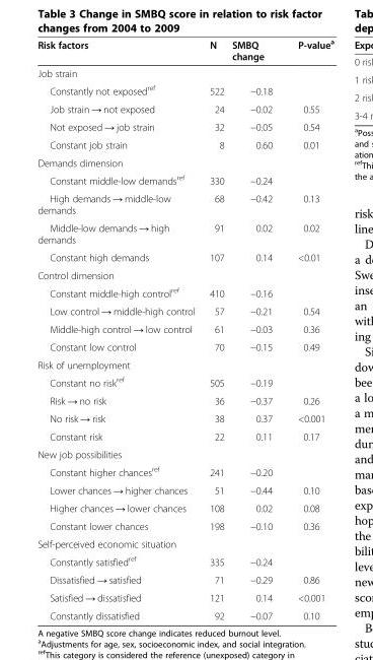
<table><thead><tr><td>Risk factors</td><td>N</td><td>SMBQ change</td><td>P-value<sup>a</sup></td></tr></thead><tbody><tr><td colspan="4">Job strain</td></tr><tr><td>Constantly not exposed<sup>ref</sup></td><td>522</td><td>−0.18</td><td></td></tr><tr><td>Job strain → not exposed</td><td>24</td><td>−0.02</td><td>0.55</td></tr><tr><td>Not exposed → job strain</td><td>32</td><td>−0.05</td><td>0.54</td></tr><tr><td>Constant job strain</td><td>8</td><td>0.60</td><td>0.01</td></tr><tr><td colspan="4">Demands dimension</td></tr><tr><td>Constant middle-low demands<sup>ref</sup></td><td>330</td><td>−0.24</td><td></td></tr><tr><td>High demands → middle-low demands</td><td>68</td><td>−0.42</td><td>0.13</td></tr><tr><td>Middle-low demands → high demands</td><td>91</td><td>0.02</td><td>0.02</td></tr><tr><td>Constant high demands</td><td>107</td><td>0.14</td><td>&lt;0.01</td></tr><tr><td colspan="4">Control dimension</td></tr><tr><td>Constant middle-high control<sup>ref</sup></td><td>410</td><td>−0.16</td><td></td></tr><tr><td>Low control → middle-high control</td><td>57</td><td>−0.21</td><td>0.54</td></tr><tr><td>Middle-high control → low control</td><td>61</td><td>−0.03</td><td>0.36</td></tr><tr><td>Constant low control</td><td>70</td><td>−0.15</td><td>0.49</td></tr><tr><td colspan="4">Risk of unemployment</td></tr><tr><td>Constant no risk<sup>ref</sup></td><td>505</td><td>−0.19</td><td></td></tr><tr><td>Risk → no risk</td><td>36</td><td>−0.37</td><td>0.26</td></tr><tr><td>No risk → risk</td><td>38</td><td>0.37</td><td>&lt;0.001</td></tr><tr><td>Constant risk</td><td>22</td><td>0.11</td><td>0.17</td></tr><tr><td colspan="4">New job possibilities</td></tr><tr><td>Constant higher chances<sup>ref</sup></td><td>241</td><td>−0.20</td><td></td></tr><tr><td>Lower chances → higher chances</td><td>51</td><td>−0.44</td><td>0.10</td></tr><tr><td>Higher chances → lower chances</td><td>108</td><td>0.02</td><td>0.08</td></tr><tr><td>Constant lower chances</td><td>198</td><td>−0.10</td><td>0.36</td></tr><tr><td colspan="4">Self-perceived economic situation</td></tr><tr><td>Constantly satisfied<sup>ref</sup></td><td>335</td><td>−0.24</td><td></td></tr><tr><td>Dissatisfied → satisfied</td><td>71</td><td>−0.29</td><td>0.86</td></tr><tr><td>Satisfied → dissatisfied</td><td>121</td><td>0.14</td><td>&lt;0.001</td></tr><tr><td>Constantly dissatisfied</td><td>92</td><td>−0.07</td><td>0.10</td></tr></tbody></table>